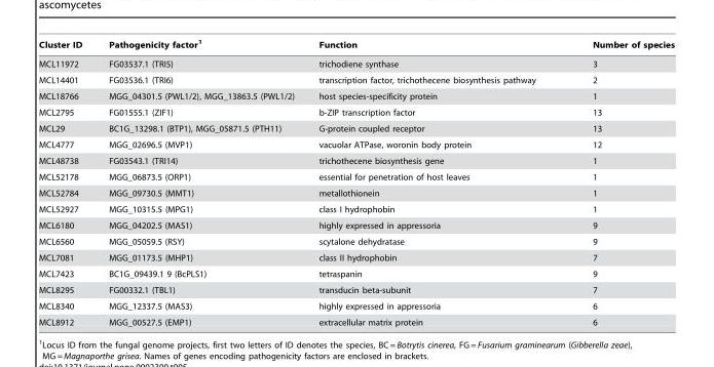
<table><thead><tr><td>Cluster ID</td><td>Pathogenicity factor<sup>1</sup></td><td>Function</td><td>Number of species</td></tr></thead><tbody><tr><td>MCL11972</td><td>FG03537.1 (TRI5)</td><td>trichodiene synthase</td><td>3</td></tr><tr><td>MCL14401</td><td>FG03536.1 (TRI6)</td><td>transcription factor, trichothecene biosynthesis pathway</td><td>2</td></tr><tr><td>MCL18766</td><td>MGG_04301.5 (PWL1/2), MGG_13863.5 (PWL1/2)</td><td>host species-specificity protein</td><td>1</td></tr><tr><td>MCL2795</td><td>FG01555.1 (ZIF1)</td><td>b-ZIP transcription factor</td><td>13</td></tr><tr><td>MCL29</td><td>BC1G_13298.1 (BTP1), MGG_05871.5 (PTH11)</td><td>G-protein coupled receptor</td><td>13</td></tr><tr><td>MCL4777</td><td>MGG_02696.5 (MVP1)</td><td>vacuolar ATPase, woronin body protein</td><td>12</td></tr><tr><td>MCL48738</td><td>FG03543.1 (TRI14)</td><td>trichothecene biosynthesis gene</td><td>1</td></tr><tr><td>MCL52178</td><td>MGG_06873.5 (ORP1)</td><td>essential for penetration of host leaves</td><td>1</td></tr><tr><td>MCL52784</td><td>MGG_09730.5 (MMT1)</td><td>metallothionein</td><td>1</td></tr><tr><td>MCL52927</td><td>MGG_10315.5 (MPG1)</td><td>class I hydrophobin</td><td>1</td></tr><tr><td>MCL6180</td><td>MGG_04202.5 (MAS1)</td><td>highly expressed in appressoria</td><td>9</td></tr><tr><td>MCL6560</td><td>MGG_05059.5 (RSY)</td><td>scytalone dehydratase</td><td>9</td></tr><tr><td>MCL7081</td><td>MGG_01173.5 (MHP1)</td><td>class II hydrophobin</td><td>7</td></tr><tr><td>MCL7423</td><td>BC1G_09439.1 9 (BcPLS1)</td><td>tetraspanin</td><td>9</td></tr><tr><td>MCL8295</td><td>FG00332.1 (TBL1)</td><td>transducin beta-subunit</td><td>7</td></tr><tr><td>MCL8340</td><td>MGG_12337.5 (MAS3)</td><td>highly expressed in appressoria</td><td>6</td></tr><tr><td>MCL8912</td><td>MGG_00527.5 (EMP1)</td><td>extracellular matrix protein</td><td>6</td></tr></tbody></table>